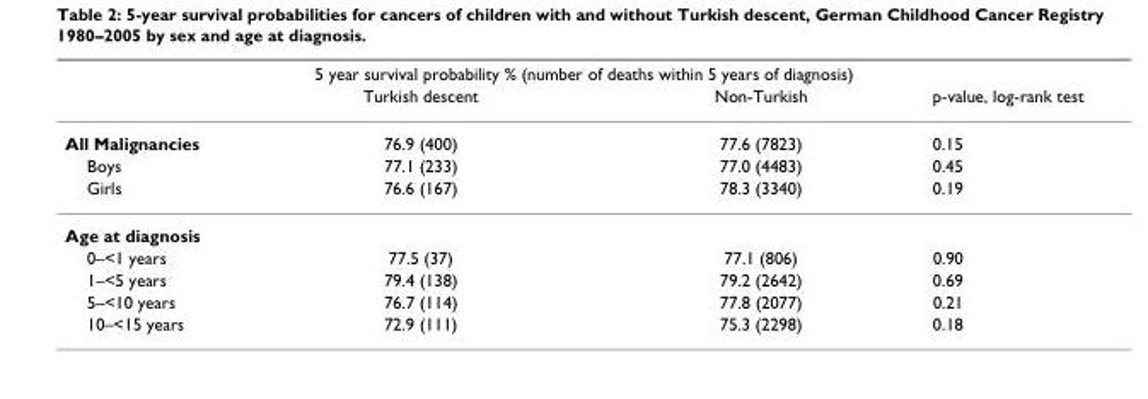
<table><thead><tr><td rowspan="2"></td><td colspan="2">5 year survival probability % (number of deaths within 5 years of diagnosis)</td><td rowspan="2">p-value, log-rank test</td></tr><tr><td>Turkish descent</td><td>Non-Turkish</td></tr></thead><tbody><tr><td>All Malignancies</td><td>76.9 (400)</td><td>77.6 (7823)</td><td>0.15</td></tr><tr><td>Boys</td><td>77.1 (233)</td><td>77.0 (4483)</td><td>0.45</td></tr><tr><td>Girls</td><td>76.6 (167)</td><td>78.3 (3340)</td><td>0.19</td></tr><tr><td colspan="4">Age at diagnosis</td></tr><tr><td>0–&lt;1 years</td><td>77.5 (37)</td><td>77.1 (806)</td><td>0.90</td></tr><tr><td>1–&lt;5 years</td><td>79.4 (138)</td><td>79.2 (2642)</td><td>0.69</td></tr><tr><td>5–&lt;10 years</td><td>76.7 (114)</td><td>77.8 (2077)</td><td>0.21</td></tr><tr><td>10–&lt;15 years</td><td>72.9 (111)</td><td>75.3 (2298)</td><td>0.18</td></tr></tbody></table>